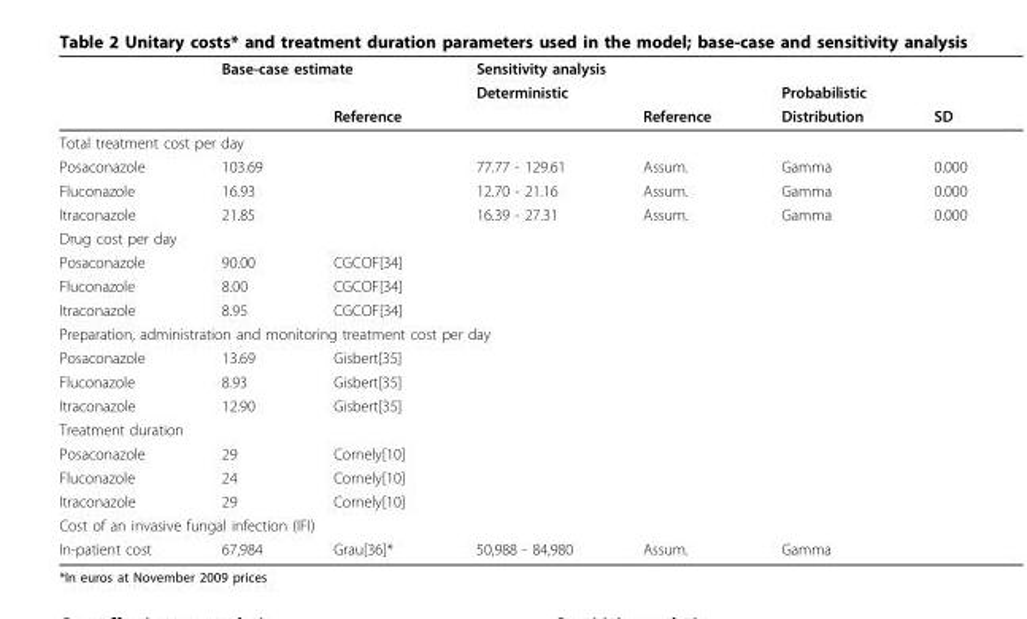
<table><thead><tr><td rowspan="3"></td><td colspan="2">Base-case estimate</td><td colspan="2">Sensitivity analysis</td><td rowspan="3">Probabilistic Distribution</td><td rowspan="3">SD</td></tr><tr><td rowspan="2"></td><td rowspan="2">Reference</td><td rowspan="2">Deterministic</td><td rowspan="2">Reference</td></tr><tr></tr></thead><tbody><tr><td colspan="7">Total treatment cost per day</td></tr><tr><td>Posaconazole</td><td>103.69</td><td></td><td>77.77 - 129.61</td><td>Assum.</td><td>Gamma</td><td>0.000</td></tr><tr><td>Fluconazole</td><td>16.93</td><td></td><td>12.70 - 21.16</td><td>Assum.</td><td>Gamma</td><td>0.000</td></tr><tr><td>Itraconazole</td><td>21.85</td><td></td><td>16.39 - 27.31</td><td>Assum.</td><td>Gamma</td><td>0.000</td></tr><tr><td colspan="7">Drug cost per day</td></tr><tr><td>Posaconazole</td><td>90.00</td><td>CGCOF[34]</td><td></td><td></td><td></td><td></td></tr><tr><td>Fluconazole</td><td>8.00</td><td>CGCOF[34]</td><td></td><td></td><td></td><td></td></tr><tr><td>Itraconazole</td><td>8.95</td><td>CGCOF[34]</td><td></td><td></td><td></td><td></td></tr><tr><td colspan="7">Preparation, administration and monitoring treatment cost per day</td></tr><tr><td>Posaconazole</td><td>13.69</td><td>Gisbert[35]</td><td></td><td></td><td></td><td></td></tr><tr><td>Fluconazole</td><td>8.93</td><td>Gisbert[35]</td><td></td><td></td><td></td><td></td></tr><tr><td>Itraconazole</td><td>12.90</td><td>Gisbert[35]</td><td></td><td></td><td></td><td></td></tr><tr><td colspan="7">Treatment duration</td></tr><tr><td>Posaconazole</td><td>29</td><td>Cornely[10]</td><td></td><td></td><td></td><td></td></tr><tr><td>Fluconazole</td><td>24</td><td>Cornely[10]</td><td></td><td></td><td></td><td></td></tr><tr><td>Itraconazole</td><td>29</td><td>Cornely[10]</td><td></td><td></td><td></td><td></td></tr><tr><td colspan="7">Cost of an invasive fungal infection (IFI)</td></tr><tr><td>In-patient cost</td><td>67,984</td><td>Grau[36]*</td><td>50,988 - 84,980</td><td>Assum.</td><td>Gamma</td><td></td></tr></tbody></table>